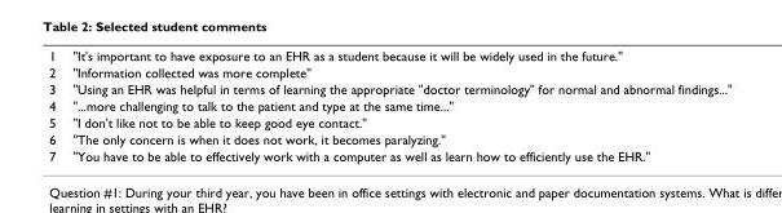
<table><tbody><tr><td>1</td><td>&quot;It&#x27;s important to have exposure to an EHR as a student because it will be widely used in the future.&quot;</td></tr><tr><td>2</td><td>&quot;Information collected was more complete&quot;</td></tr><tr><td>3</td><td>&quot;Using an EHR was helpful in terms of learning the appropriate &quot;doctor terminology&quot; for normal and abnormal findings...&quot;</td></tr><tr><td>4</td><td>&quot;...more challenging to talk to the patient and type at the same time...&quot;</td></tr><tr><td>5</td><td>&quot;I don&#x27;t like not to be able to keep good eye contact.&quot;</td></tr><tr><td>6</td><td>&quot;The only concern is when it does not work, it becomes paralyzing.&quot;</td></tr><tr><td>7</td><td>&quot;You have to be able to effectively work with a computer as well as learn how to efficiently use the EHR.&quot;</td></tr></tbody></table>